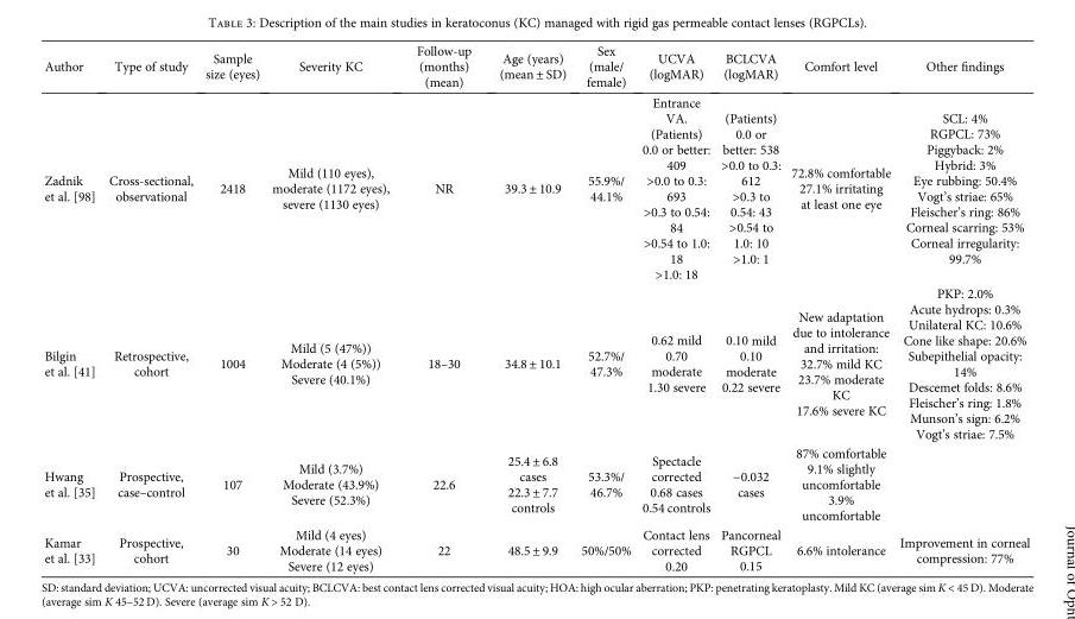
<table><thead><tr><td>Author</td><td>Type of study</td><td>Sample size (eyes)</td><td>Severity KC</td><td>Follow-up (months) (mean)</td><td>Age (years) (mean ± SD)</td><td>Sex (male/ female)</td><td>UCVA (logMAR)</td><td>BCLCVA (logMAR)</td><td>Comfort level</td><td>Other findings</td></tr></thead><tbody><tr><td>Zadnik et al. [98]</td><td>Cross-sectional, observational</td><td>2418</td><td>Mild (110 eyes), moderate (1172 eyes), severe (1130 eyes)</td><td>NR</td><td>39.3 ± 10.9</td><td>55.9%/ 44.1%</td><td>Entrance VA. (Patients) 0.0 or better: 409 &gt;0.0 to 0.3: 693 &gt;0.3 to 0.54: 84 &gt;0.54 to 1.0: 18 &gt;1.0: 18</td><td>(Patients) 0.0 or better: 538 &gt;0.0 to 0.3: 612 &gt;0.3 to 0.54: 43 &gt;0.54 to 1.0: 10 &gt;1.0: 1</td><td>72.8% comfortable 27.1% irritating at least one eye</td><td>SCL: 4% RGPCL: 73% Piggyback: 2% Hybrid: 3% Eye rubbing: 50.4% Vogt’s striae: 65% Fleischer’s ring: 86% Corneal scarring: 53% Corneal irregularity: 99.7%</td></tr><tr><td>Bilgin et al. [41]</td><td>Retrospective, cohort</td><td>1004</td><td>Mild (5 (47%)) Moderate (4 (5%)) Severe (40.1%)</td><td>18–30</td><td>34.8 ± 10.1</td><td>52.7%/ 47.3%</td><td>0.62 mild 0.70 moderate 1.30 severe</td><td>0.10 mild 0.10 moderate 0.22 severe</td><td>New adaptation due to intolerance and irritation: 32.7% mild KC 23.7% moderate KC 17.6% severe KC</td><td>PKP: 2.0% Acute hydrops: 0.3% Unilateral KC: 10.6% Cone like shape: 20.6% Subepithelial opacity: 14% Descemet folds: 8.6% Fleischer’s ring: 1.8% Munson’s sign: 6.2% Vogt’s striae: 7.5%</td></tr><tr><td>Hwang et al. [35]</td><td>Prospective, case–control</td><td>107</td><td>Mild (3.7%) Moderate (43.9%) Severe (52.3%)</td><td>22.6</td><td>25.4 ± 6.8 cases 22.3 ± 7.7 controls</td><td>53.3%/ 46.7%</td><td>Spectacle corrected 0.68 cases 0.54 controls</td><td>−0.032 cases</td><td>87% comfortable 9.1% slightly uncomfortable 3.9% uncomfortable</td><td></td></tr><tr><td>Kamar et al. [33]</td><td>Prospective, cohort</td><td>30</td><td>Mild (4 eyes) Moderate (14 eyes) Severe (12 eyes)</td><td>22</td><td>48.5 ± 9.9</td><td>50%/50%</td><td>Contact lens corrected 0.20</td><td>Pancorneal RGPCL 0.15</td><td>6.6% intolerance</td><td>Improvement in corneal compression: 77%</td></tr></tbody></table>